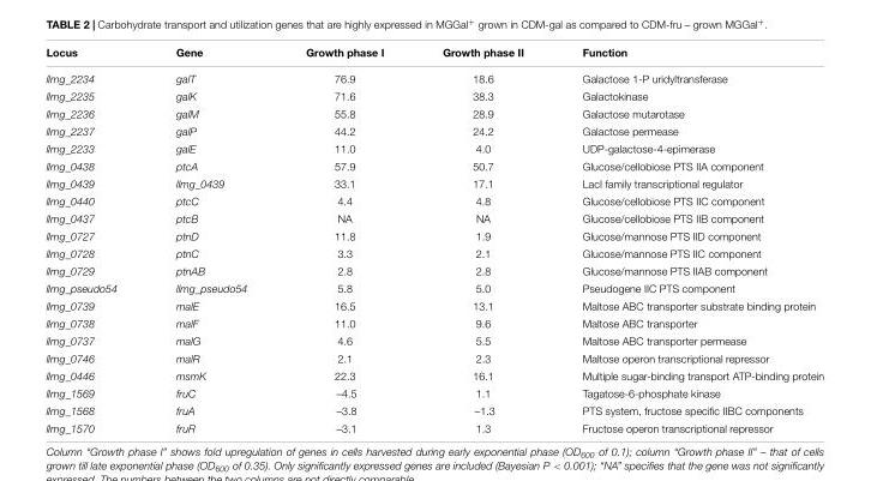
<table><thead><tr><td>Locus</td><td>Gene</td><td>Growth phase I</td><td>Growth phase II</td><td>Function</td></tr></thead><tbody><tr><td>llmg_2234</td><td>galT</td><td>76.9</td><td>18.6</td><td>Galactose 1-P uridyltransferase</td></tr><tr><td>llmg_2235</td><td>galK</td><td>71.6</td><td>38.3</td><td>Galactokinase</td></tr><tr><td>llmg_2236</td><td>galM</td><td>55.8</td><td>28.9</td><td>Galactose mutarotase</td></tr><tr><td>llmg_2237</td><td>galP</td><td>44.2</td><td>24.2</td><td>Galactose permease</td></tr><tr><td>llmg_2233</td><td>galE</td><td>11.0</td><td>4.0</td><td>UDP-galactose-4-epimerase</td></tr><tr><td>llmg_0438</td><td>ptcA</td><td>57.9</td><td>50.7</td><td>Glucose/cellobiose PTS IIA component</td></tr><tr><td>llmg_0439</td><td>llmg_0439</td><td>33.1</td><td>17.1</td><td>LacI family transcriptional regulator</td></tr><tr><td>llmg_0440</td><td>ptcC</td><td>4.4</td><td>4.8</td><td>Glucose/cellobiose PTS IIC component</td></tr><tr><td>llmg_0437</td><td>ptcB</td><td>NA</td><td>NA</td><td>Glucose/cellobiose PTS IIB component</td></tr><tr><td>llmg_0727</td><td>ptnD</td><td>11.8</td><td>1.9</td><td>Glucose/mannose PTS IID component</td></tr><tr><td>llmg_0728</td><td>ptnC</td><td>3.3</td><td>2.1</td><td>Glucose/mannose PTS IIC component</td></tr><tr><td>llmg_0729</td><td>ptnAB</td><td>2.8</td><td>2.8</td><td>Glucose/mannose PTS IIAB component</td></tr><tr><td>llmg_pseudo54</td><td>llmg_pseudo54</td><td>5.8</td><td>5.0</td><td>Pseudogene IIC PTS component</td></tr><tr><td>llmg_0739</td><td>malE</td><td>16.5</td><td>13.1</td><td>Maltose ABC transporter substrate binding protein</td></tr><tr><td>llmg_0738</td><td>malF</td><td>11.0</td><td>9.6</td><td>Maltose ABC transporter</td></tr><tr><td>llmg_0737</td><td>malG</td><td>4.6</td><td>5.5</td><td>Maltose ABC transporter permease</td></tr><tr><td>llmg_0746</td><td>malR</td><td>2.1</td><td>2.3</td><td>Maltose operon transcriptional repressor</td></tr><tr><td>llmg_0446</td><td>msmK</td><td>22.3</td><td>16.1</td><td>Multiple sugar-binding transport ATP-binding protein</td></tr><tr><td>llmg_1569</td><td>fruC</td><td>–4.5</td><td>1.1</td><td>Tagatose-6-phosphate kinase</td></tr><tr><td>llmg_1568</td><td>fruA</td><td>–3.8</td><td>–1.3</td><td>PTS system, fructose specific IIBC components</td></tr><tr><td>llmg_1570</td><td>fruR</td><td>–3.1</td><td>1.3</td><td>Fructose operon transcriptional repressor</td></tr></tbody></table>